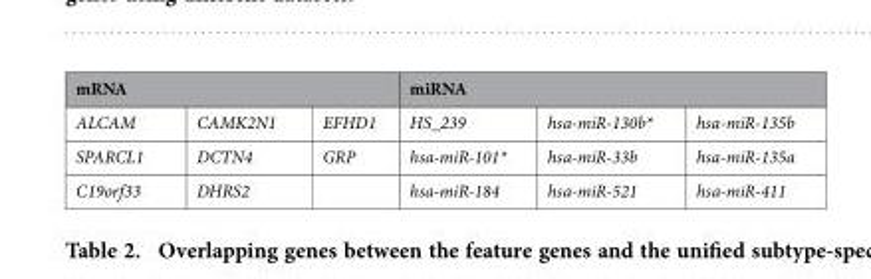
<table><thead><tr><td colspan="3">mRNA</td><td colspan="3">miRNA</td></tr><tr><td>ALCAM</td><td>CAMK2N1</td><td>EFHD1</td><td>HS_239</td><td>hsa-miR-130b*</td><td>hsa-miR-135b</td></tr></thead><tbody><tr><td>SPARCL1</td><td>DCTN4</td><td>GRP</td><td>hsa-miR-101*</td><td>hsa-miR-33b</td><td>hsa-miR-135a</td></tr><tr><td>C19orf33</td><td>DHRS2</td><td></td><td>hsa-miR-184</td><td>hsa-miR-521</td><td>hsa-miR-411</td></tr></tbody></table>